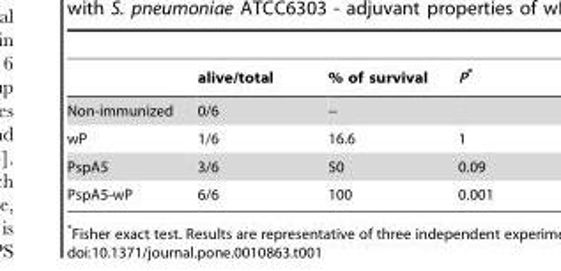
<table><thead><tr><td></td><td>alive/total</td><td>% of survival</td><td>P*</td></tr></thead><tbody><tr><td>Non-immunized</td><td>0/6</td><td>--</td><td></td></tr><tr><td>wP</td><td>1/6</td><td>16.6</td><td>1</td></tr><tr><td>PspA5</td><td>3/6</td><td>50</td><td>0.09</td></tr><tr><td>PspA5-wP</td><td>6/6</td><td>100</td><td>0.001</td></tr></tbody></table>